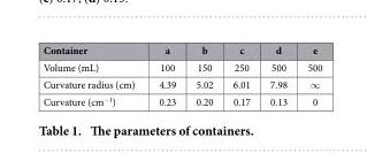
<table><thead><tr><td>Container</td><td>a</td><td>b</td><td>c</td><td>d</td><td>e</td></tr></thead><tbody><tr><td>Volume (mL)</td><td>100</td><td>150</td><td>250</td><td>500</td><td>500</td></tr><tr><td>Curvature radius (cm)</td><td>4.39</td><td>5.02</td><td>6.01</td><td>7.98</td><td>∞</td></tr><tr><td>Curvature (cm<sup>−1</sup>)</td><td>0.23</td><td>0.20</td><td>0.17</td><td>0.13</td><td>0</td></tr></tbody></table>